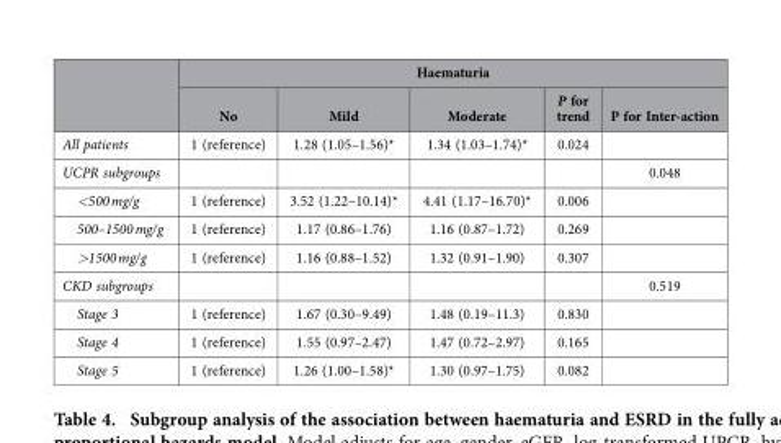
<table><thead><tr><td rowspan="2"></td><td colspan="5">Haematuria</td></tr><tr><td>No</td><td>Mild</td><td>Moderate</td><td>P for trend</td><td>P for Inter-action</td></tr></thead><tbody><tr><td>All patients</td><td>1 (reference)</td><td>1.28 (1.05–1.56)*</td><td>1.34 (1.03–1.74)*</td><td>0.024</td><td></td></tr><tr><td>UCPR subgroups</td><td></td><td></td><td></td><td></td><td>0.048</td></tr><tr><td>&lt;500 mg/g</td><td>1 (reference)</td><td>3.52 (1.22–10.14)*</td><td>4.41 (1.17–16.70)*</td><td>0.006</td><td></td></tr><tr><td>500–1500 mg/g</td><td>1 (reference)</td><td>1.17 (0.86–1.76)</td><td>1.16 (0.87–1.72)</td><td>0.269</td><td></td></tr><tr><td>&gt;1500 mg/g</td><td>1 (reference)</td><td>1.16 (0.88–1.52)</td><td>1.32 (0.91–1.90)</td><td>0.307</td><td></td></tr><tr><td>CKD subgroups</td><td></td><td></td><td></td><td></td><td>0.519</td></tr><tr><td>Stage 3</td><td>1 (reference)</td><td>1.67 (0.30–9.49)</td><td>1.48 (0.19–11.3)</td><td>0.830</td><td></td></tr><tr><td>Stage 4</td><td>1 (reference)</td><td>1.55 (0.97–2.47)</td><td>1.47 (0.72–2.97)</td><td>0.165</td><td></td></tr><tr><td>Stage 5</td><td>1 (reference)</td><td>1.26 (1.00–1.58)*</td><td>1.30 (0.97–1.75)</td><td>0.082</td><td></td></tr></tbody></table>